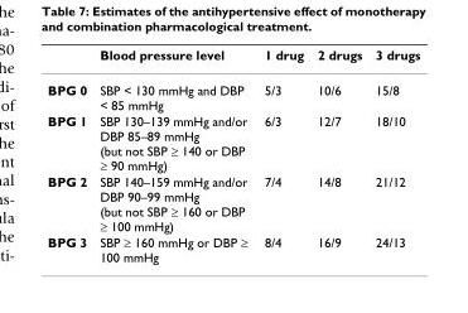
<table><thead><tr><td></td><td>Blood pressure level</td><td>1 drug</td><td>2 drugs</td><td>3 drugs</td></tr></thead><tbody><tr><td>BPG 0</td><td>SBP &lt; 130 mmHg and DBP &lt; 85 mmHg</td><td>5/3</td><td>10/6</td><td>15/8</td></tr><tr><td>BPG 1</td><td>SBP 130–139 mmHg and/or DBP 85–89 mmHg (but not SBP ≥ 140 or DBP ≥ 90 mmHg)</td><td>6/3</td><td>12/7</td><td>18/10</td></tr><tr><td>BPG 2</td><td>SBP 140–159 mmHg and/or DBP 90–99 mmHg (but not SBP ≥ 160 or DBP ≥ 100 mmHg)</td><td>7/4</td><td>14/8</td><td>21/12</td></tr><tr><td>BPG 3</td><td>SBP ≥ 160 mmHg or DBP ≥ 100 mmHg</td><td>8/4</td><td>16/9</td><td>24/13</td></tr></tbody></table>